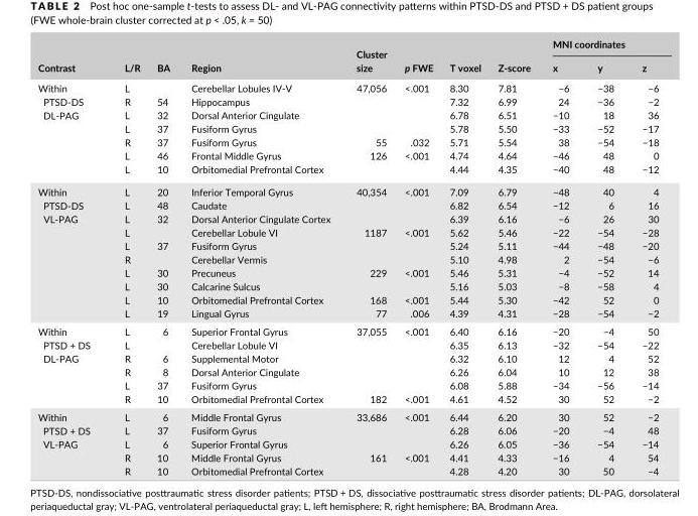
<table><thead><tr><td rowspan="2">Contrast</td><td rowspan="2">L/R</td><td rowspan="2">BA</td><td rowspan="2">Region</td><td rowspan="2">Cluster size</td><td rowspan="2">p FWE</td><td rowspan="2">T voxel</td><td rowspan="2">Z- score</td><td colspan="3">MNI coordinates</td></tr><tr><td>x</td><td>y</td><td>z</td></tr></thead><tbody><tr><td rowspan="7">Within PTSD- DS DL- PAG</td><td>L</td><td></td><td>Cerebellar Lobules IV- V</td><td>47,056</td><td>&lt;.001</td><td>8.30</td><td>7.81</td><td>−6</td><td>−38</td><td>−6</td></tr><tr><td>R</td><td>54</td><td>Hippocampus</td><td></td><td></td><td>7.32</td><td>6.99</td><td>24</td><td>−36</td><td>−2</td></tr><tr><td>L</td><td>32</td><td>Dorsal Anterior Cingulate</td><td></td><td></td><td>6.78</td><td>6.51</td><td>−10</td><td>18</td><td>36</td></tr><tr><td>L</td><td>37</td><td>Fusiform Gyrus</td><td></td><td></td><td>5.78</td><td>5.50</td><td>−33</td><td>−52</td><td>−17</td></tr><tr><td>R</td><td>37</td><td>Fusiform Gyrus</td><td>55</td><td>.032</td><td>5.71</td><td>5.54</td><td>38</td><td>−54</td><td>−18</td></tr><tr><td>L</td><td>46</td><td>Frontal Middle Gyrus</td><td>126</td><td>&lt;.001</td><td>4.74</td><td>4.64</td><td>−46</td><td>48</td><td>0</td></tr><tr><td>L</td><td>10</td><td>Orbitomedial Prefrontal Cortex</td><td></td><td></td><td>4.44</td><td>4.35</td><td>−40</td><td>48</td><td>−12</td></tr><tr><td rowspan="10">Within PTSD- DS VL- PAG</td><td>L</td><td>20</td><td>Inferior Temporal Gyrus</td><td>40,354</td><td>&lt;.001</td><td>7.09</td><td>6.79</td><td>−48</td><td>40</td><td>4</td></tr><tr><td>L</td><td>48</td><td>Caudate</td><td></td><td></td><td>6.82</td><td>6.54</td><td>−12</td><td>6</td><td>16</td></tr><tr><td>L</td><td>32</td><td>Dorsal Anterior Cingulate Cortex</td><td></td><td></td><td>6.39</td><td>6.16</td><td>−6</td><td>26</td><td>30</td></tr><tr><td>L</td><td></td><td>Cerebellar Lobule VI</td><td>1187</td><td>&lt;.001</td><td>5.62</td><td>5.46</td><td>−22</td><td>−54</td><td>−28</td></tr><tr><td>L</td><td>37</td><td>Fusiform Gyrus</td><td></td><td></td><td>5.24</td><td>5.11</td><td>−44</td><td>−48</td><td>−20</td></tr><tr><td>R</td><td></td><td>Cerebellar Vermis</td><td></td><td></td><td>5.10</td><td>4.98</td><td>2</td><td>−54</td><td>−6</td></tr><tr><td>L</td><td>30</td><td>Precuneus</td><td>229</td><td>&lt;.001</td><td>5.46</td><td>5.31</td><td>−4</td><td>−52</td><td>14</td></tr><tr><td>L</td><td>30</td><td>Calcarine Sulcus</td><td></td><td></td><td>5.16</td><td>5.03</td><td>−8</td><td>−58</td><td>4</td></tr><tr><td>L</td><td>10</td><td>Orbitomedial Prefrontal Cortex</td><td>168</td><td>&lt;.001</td><td>5.44</td><td>5.30</td><td>−42</td><td>52</td><td>0</td></tr><tr><td>L</td><td>19</td><td>Lingual Gyrus</td><td>77</td><td>.006</td><td>4.39</td><td>4.31</td><td>−28</td><td>−54</td><td>−2</td></tr><tr><td rowspan="6">Within PTSD + DS DL- PAG</td><td>L</td><td>6</td><td>Superior Frontal Gyrus</td><td>37,055</td><td>&lt;.001</td><td>6.40</td><td>6.16</td><td>−20</td><td>−4</td><td>50</td></tr><tr><td>L</td><td></td><td>Cerebellar Lobule VI</td><td></td><td></td><td>6.35</td><td>6.13</td><td>−32</td><td>−54</td><td>−22</td></tr><tr><td>R</td><td>6</td><td>Supplemental Motor</td><td></td><td></td><td>6.32</td><td>6.10</td><td>12</td><td>4</td><td>52</td></tr><tr><td>R</td><td>8</td><td>Dorsal Anterior Cingulate</td><td></td><td></td><td>6.26</td><td>6.04</td><td>10</td><td>12</td><td>38</td></tr><tr><td>L</td><td>37</td><td>Fusiform Gyrus</td><td></td><td></td><td>6.08</td><td>5.88</td><td>−34</td><td>−56</td><td>−14</td></tr><tr><td>R</td><td>10</td><td>Orbitomedial Prefrontal Cortex</td><td>182</td><td>&lt;.001</td><td>4.61</td><td>4.52</td><td>30</td><td>52</td><td>−2</td></tr><tr><td rowspan="5">Within PTSD + DS VL- PAG</td><td>L</td><td>6</td><td>Middle Frontal Gyrus</td><td>33,686</td><td>&lt;.001</td><td>6.44</td><td>6.20</td><td>30</td><td>52</td><td>−2</td></tr><tr><td>L</td><td>37</td><td>Fusiform Gyrus</td><td></td><td></td><td>6.28</td><td>6.06</td><td>−20</td><td>−4</td><td>48</td></tr><tr><td>L</td><td>6</td><td>Superior Frontal Gyrus</td><td></td><td></td><td>6.26</td><td>6.05</td><td>−36</td><td>−54</td><td>−14</td></tr><tr><td>R</td><td>10</td><td>Middle Frontal Gyrus</td><td>161</td><td>&lt;.001</td><td>4.41</td><td>4.33</td><td>−16</td><td>4</td><td>54</td></tr><tr><td>R</td><td>10</td><td>Orbitomedial Prefrontal Cortex</td><td></td><td></td><td>4.28</td><td>4.20</td><td>30</td><td>50</td><td>−4</td></tr></tbody></table>